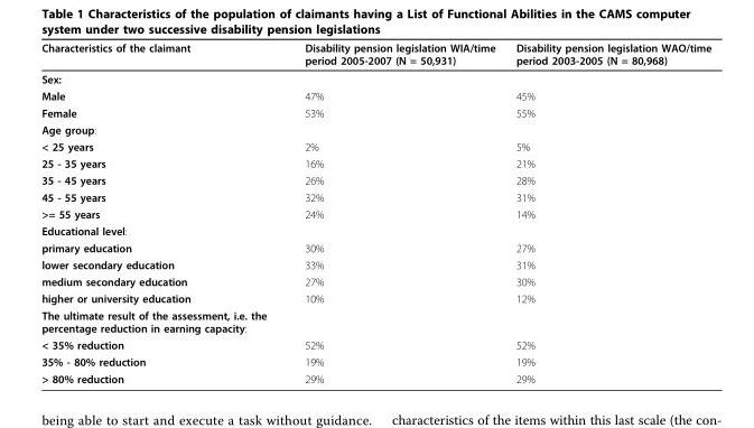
<table><thead><tr><td>Characteristics of the claimant</td><td>Disability pension legislation WIA/time period 2005-2007 (N = 50,931)</td><td>Disability pension legislation WAO/time period 2003-2005 (N = 80,968)</td></tr></thead><tbody><tr><td colspan="3">Sex:</td></tr><tr><td>Male</td><td>47%</td><td>45%</td></tr><tr><td>Female</td><td>53%</td><td>55%</td></tr><tr><td colspan="3">Age group:</td></tr><tr><td>&lt; 25 years</td><td>2%</td><td>5%</td></tr><tr><td>25 - 35 years</td><td>16%</td><td>21%</td></tr><tr><td>35 - 45 years</td><td>26%</td><td>28%</td></tr><tr><td>45 - 55 years</td><td>32%</td><td>31%</td></tr><tr><td>&gt;= 55 years</td><td>24%</td><td>14%</td></tr><tr><td colspan="3">Educational level:</td></tr><tr><td>primary education</td><td>30%</td><td>27%</td></tr><tr><td>lower secondary education</td><td>33%</td><td>31%</td></tr><tr><td>medium secondary education</td><td>27%</td><td>30%</td></tr><tr><td>higher or university education</td><td>10%</td><td>12%</td></tr><tr><td colspan="3">The ultimate result of the assessment, i.e. the percentage reduction in earning capacity:</td></tr><tr><td>&lt; 35% reduction</td><td>52%</td><td>52%</td></tr><tr><td>35% - 80% reduction</td><td>19%</td><td>19%</td></tr><tr><td>&gt; 80% reduction</td><td>29%</td><td>29%</td></tr></tbody></table>